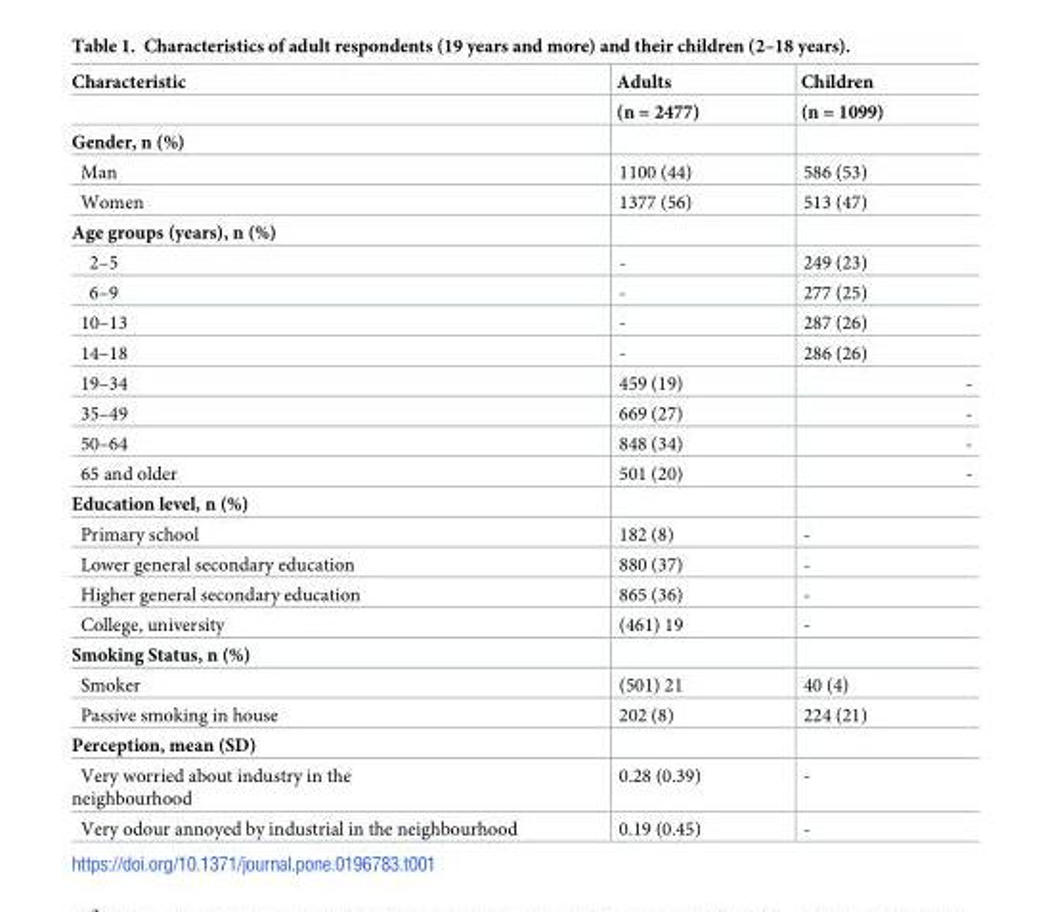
<table><thead><tr><td rowspan="2">Characteristic</td><td rowspan="2">Adults (n = 2477)</td><td rowspan="2">Children (n = 1099)</td></tr><tr></tr></thead><tbody><tr><td colspan="3">Gender, n (%)</td></tr><tr><td>Man</td><td>1100 (44)</td><td>586 (53)</td></tr><tr><td>Women</td><td>1377 (56)</td><td>513 (47)</td></tr><tr><td colspan="3">Age groups (years), n (%)</td></tr><tr><td>2–5</td><td>-</td><td>249 (23)</td></tr><tr><td>6–9</td><td>-</td><td>277 (25)</td></tr><tr><td>10–13</td><td>-</td><td>287 (26)</td></tr><tr><td>14–18</td><td>-</td><td>286 (26)</td></tr><tr><td>19–34</td><td>459 (19)</td><td>-</td></tr><tr><td>35–49</td><td>669 (27)</td><td>-</td></tr><tr><td>50–64</td><td>848 (34)</td><td>-</td></tr><tr><td>65 and older</td><td>501 (20)</td><td>-</td></tr><tr><td colspan="3">Education level, n (%)</td></tr><tr><td>Primary school</td><td>182 (8)</td><td>-</td></tr><tr><td>Lower general secondary education</td><td>880 (37)</td><td>-</td></tr><tr><td>Higher general secondary education</td><td>865 (36)</td><td>-</td></tr><tr><td>College, university</td><td>(461) 19</td><td>-</td></tr><tr><td colspan="3">Smoking Status, n (%)</td></tr><tr><td>Smoker</td><td>(501) 21</td><td>40 (4)</td></tr><tr><td>Passive smoking in house</td><td>202 (8)</td><td>224 (21)</td></tr><tr><td colspan="3">Perception, mean (SD)</td></tr><tr><td>Very worried about industry in the neighbourhood</td><td>0.28 (0.39)</td><td>-</td></tr><tr><td>Very odour annoyed by industrial in the neighbourhood</td><td>0.19 (0.45)</td><td>-</td></tr></tbody></table>